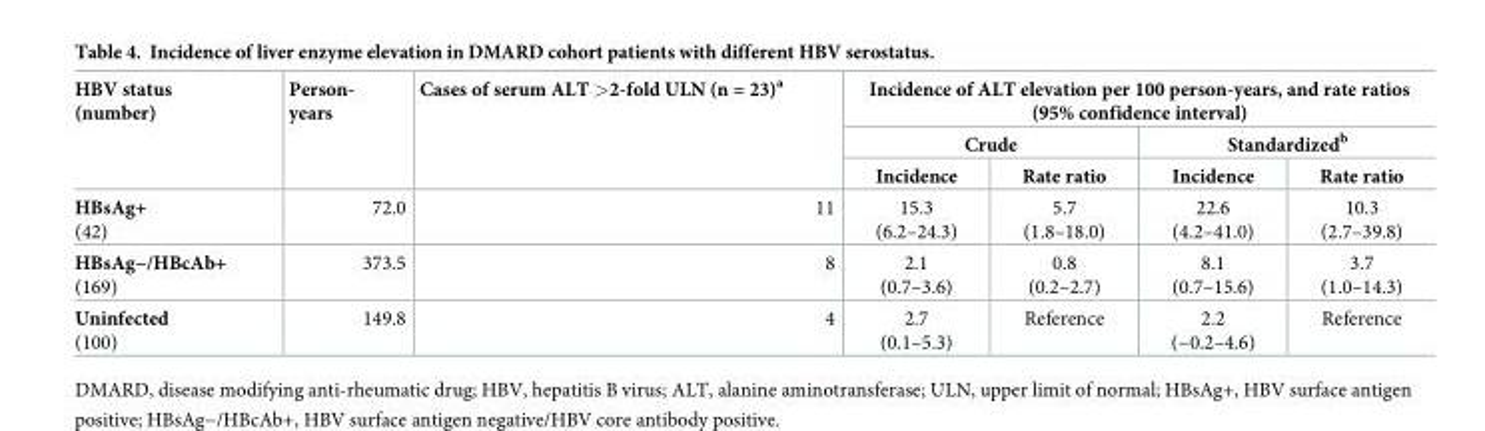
<table><thead><tr><td rowspan="3">HBV status (number)</td><td rowspan="3">Person- years</td><td rowspan="3">Cases of serum ALT &gt;2-fold ULN (n = 23)<sup>a</sup></td><td colspan="4">Incidence of ALT elevation per 100 person-years, and rate ratios (95% confidence interval)</td></tr><tr><td colspan="2">Crude</td><td colspan="2">Standardized<sup>b</sup></td></tr><tr><td>Incidence</td><td>Rate ratio</td><td>Incidence</td><td>Rate ratio</td></tr></thead><tbody><tr><td>HBsAg+ (42)</td><td>72.0</td><td>11</td><td>15.3 (6.2–24.3)</td><td>5.7 (1.8–18.0)</td><td>22.6 (4.2–41.0)</td><td>10.3 (2.7–39.8)</td></tr><tr><td>HBsAg−/HBcAb+ (169)</td><td>373.5</td><td>8</td><td>2.1 (0.7–3.6)</td><td>0.8 (0.2–2.7)</td><td>8.1 (0.7–15.6)</td><td>3.7 (1.0–14.3)</td></tr><tr><td>Uninfected (100)</td><td>149.8</td><td>4</td><td>2.7 (0.1–5.3)</td><td>Reference</td><td>2.2 (−0.2–4.6)</td><td>Reference</td></tr></tbody></table>